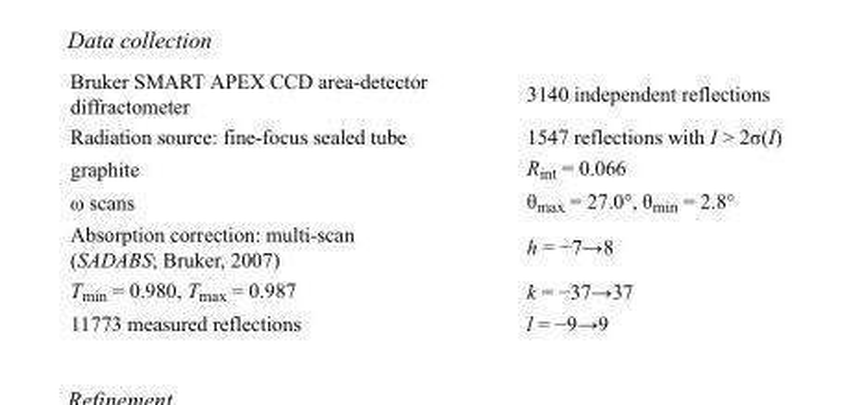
<table><tbody><tr><td>Bruker SMART APEX CCD area-detector diffractometer</td><td>3140 independent reflections</td></tr><tr><td>Radiation source: fine-focus sealed tube</td><td>1547 reflections with I &gt; 2σ(I)</td></tr><tr><td>graphite</td><td>R<sub>int</sub> = 0.066</td></tr><tr><td>ω scans</td><td>θ<sub>max</sub> = 27.0°, θ<sub>min</sub> = 2.8°</td></tr><tr><td>Absorption correction: multi-scan (SADABS; Bruker, 2007)</td><td>h = −7→8</td></tr><tr><td>T<sub>min</sub> = 0.980, T<sub>max</sub> = 0.987</td><td>k = −37→37</td></tr><tr><td>11773 measured reflections</td><td>l = −9→9</td></tr></tbody></table>